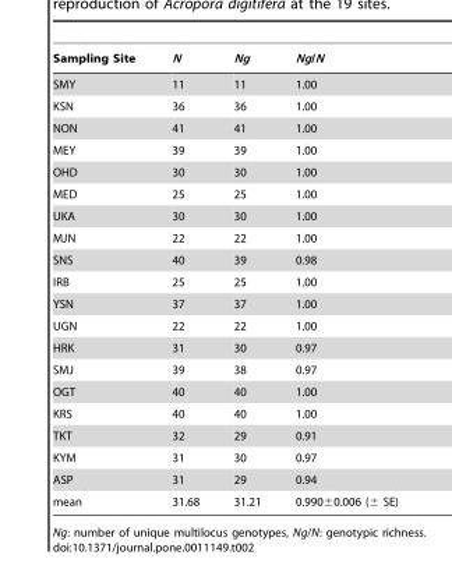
<table><thead><tr><td>Sampling Site</td><td>N</td><td>Ng</td><td>Ng/N</td></tr></thead><tbody><tr><td>SMY</td><td>11</td><td>11</td><td>1.00</td></tr><tr><td>KSN</td><td>36</td><td>36</td><td>1.00</td></tr><tr><td>NON</td><td>41</td><td>41</td><td>1.00</td></tr><tr><td>MEY</td><td>39</td><td>39</td><td>1.00</td></tr><tr><td>OHD</td><td>30</td><td>30</td><td>1.00</td></tr><tr><td>MED</td><td>25</td><td>25</td><td>1.00</td></tr><tr><td>UKA</td><td>30</td><td>30</td><td>1.00</td></tr><tr><td>MJN</td><td>22</td><td>22</td><td>1.00</td></tr><tr><td>SNS</td><td>40</td><td>39</td><td>0.98</td></tr><tr><td>IRB</td><td>25</td><td>25</td><td>1.00</td></tr><tr><td>YSN</td><td>37</td><td>37</td><td>1.00</td></tr><tr><td>UGN</td><td>22</td><td>22</td><td>1.00</td></tr><tr><td>HRK</td><td>31</td><td>30</td><td>0.97</td></tr><tr><td>SMJ</td><td>39</td><td>38</td><td>0.97</td></tr><tr><td>OGT</td><td>40</td><td>40</td><td>1.00</td></tr><tr><td>KRS</td><td>40</td><td>40</td><td>1.00</td></tr><tr><td>TKT</td><td>32</td><td>29</td><td>0.91</td></tr><tr><td>KYM</td><td>31</td><td>30</td><td>0.97</td></tr><tr><td>ASP</td><td>31</td><td>29</td><td>0.94</td></tr><tr><td>mean</td><td>31.68</td><td>31.21</td><td>0.990±0.006 (± SE)</td></tr></tbody></table>